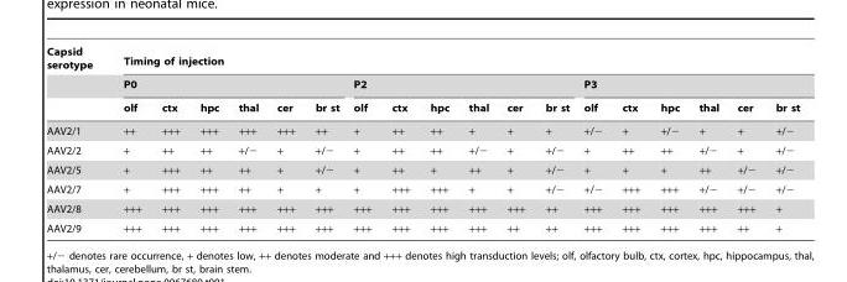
<table><thead><tr><td rowspan="3">Capsid serotype</td><td colspan="18">Timing of injection</td></tr><tr><td colspan="6">P0</td><td colspan="6">P2</td><td colspan="6">P3</td></tr><tr><td>olf</td><td>ctx</td><td>hpc</td><td>thal</td><td>cer</td><td>br st</td><td>olf</td><td>ctx</td><td>hpc</td><td>thal</td><td>cer</td><td>br st</td><td>olf</td><td>ctx</td><td>hpc</td><td>thal</td><td>cer</td><td>br st</td></tr></thead><tbody><tr><td>AAV2/1</td><td>++</td><td>+++</td><td>+++</td><td>+++</td><td>+++</td><td>++</td><td>+</td><td>++</td><td>++</td><td>+</td><td>+</td><td>+</td><td>+/−</td><td>+</td><td>+/−</td><td>+</td><td>+</td><td>+/−</td></tr><tr><td>AAV2/2</td><td>+</td><td>++</td><td>++</td><td>+/−</td><td>+</td><td>+/−</td><td>+</td><td>++</td><td>++</td><td>+/−</td><td>+</td><td>+/−</td><td>+</td><td>++</td><td>++</td><td>+/−</td><td>+</td><td>+/−</td></tr><tr><td>AAV2/5</td><td>+</td><td>+++</td><td>++</td><td>++</td><td>+</td><td>+/−</td><td>+</td><td>++</td><td>+</td><td>++</td><td>+</td><td>+/−</td><td>+</td><td>+</td><td>+</td><td>++</td><td>+/−</td><td>+/−</td></tr><tr><td>AAV2/7</td><td>+</td><td>+++</td><td>+++</td><td>++</td><td>+</td><td>+</td><td>+</td><td>+++</td><td>+++</td><td>+</td><td>+</td><td>+/−</td><td>+/−</td><td>+++</td><td>+++</td><td>+/−</td><td>+/−</td><td>+/−</td></tr><tr><td>AAV2/8</td><td>+++</td><td>+++</td><td>+++</td><td>+++</td><td>+++</td><td>+++</td><td>+++</td><td>+++</td><td>+++</td><td>+++</td><td>+++</td><td>++</td><td>+++</td><td>+++</td><td>+++</td><td>+++</td><td>+++</td><td>+</td></tr><tr><td>AAV2/9</td><td>+++</td><td>+++</td><td>+++</td><td>+++</td><td>+++</td><td>+++</td><td>+++</td><td>+++</td><td>+++</td><td>+++</td><td>++</td><td>++</td><td>+++</td><td>+++</td><td>+++</td><td>+++</td><td>++</td><td>+</td></tr></tbody></table>